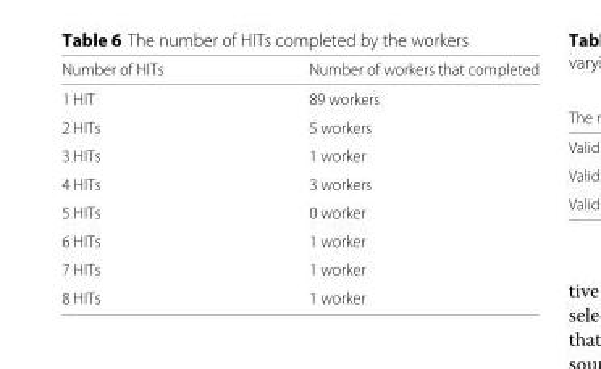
<table><thead><tr><td>Number of HITs</td><td>Number of workers that completed</td></tr></thead><tbody><tr><td>1 HIT</td><td>89 workers</td></tr><tr><td>2 HITs</td><td>5 workers</td></tr><tr><td>3 HITs</td><td>1 worker</td></tr><tr><td>4 HITs</td><td>3 workers</td></tr><tr><td>5 HITs</td><td>0 worker</td></tr><tr><td>6 HITs</td><td>1 worker</td></tr><tr><td>7 HITs</td><td>1 worker</td></tr><tr><td>8 HITs</td><td>1 worker</td></tr></tbody></table>